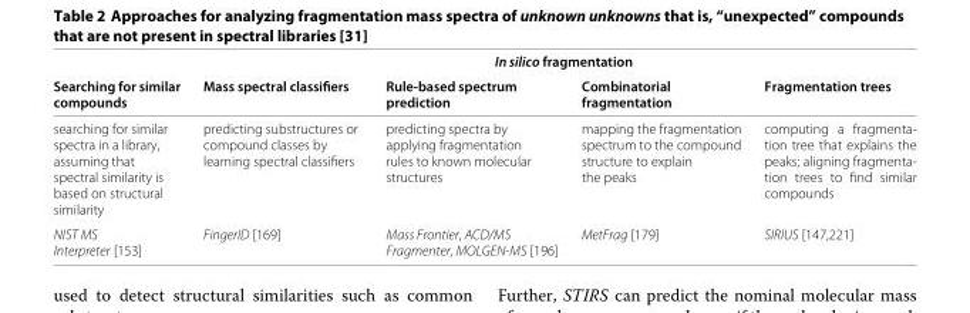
<table><thead><tr><td rowspan="2">Searching for similar compounds</td><td rowspan="2">Mass spectral classifiers</td><td colspan="2">In silico fragmentation</td><td rowspan="2">Fragmentation trees</td></tr><tr><td>Rule-based spectrum prediction</td><td>Combinatorial fragmentation</td></tr></thead><tbody><tr><td>searching for similar spectra in a library, assuming that spectral similarity is based on structural similarity</td><td>predicting substructures or compound classes by learning spectral classifiers</td><td>predicting spectra by applying fragmentation rules to known molecular structures</td><td>mapping the fragmentation spectrum to the compound structure to explain the peaks</td><td>computing a fragmenta- tion tree that explains the peaks; aligning fragmenta- tion trees to find similar compounds</td></tr><tr><td>NIST MS Interpreter [153]</td><td>FingerID [169]</td><td>Mass Frontier, ACD/MS Fragmenter, MOLGEN-MS [196]</td><td>MetFrag [179]</td><td>SIRIUS [147,221]</td></tr></tbody></table>